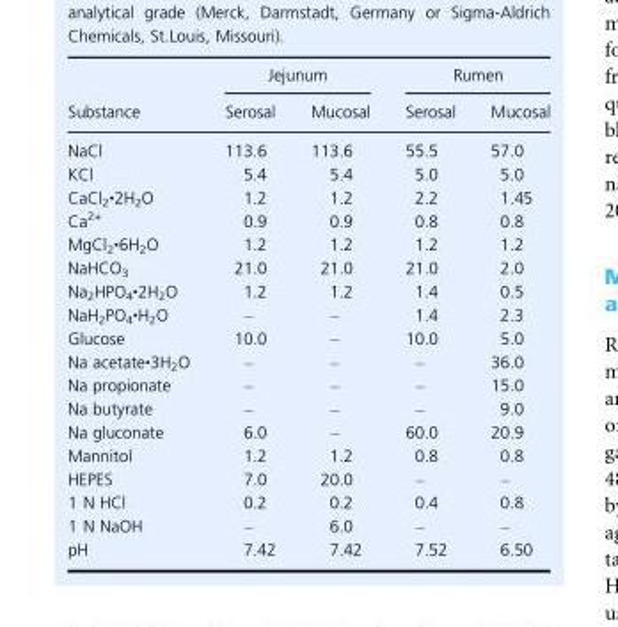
<table><thead><tr><td rowspan="2">Substance</td><td colspan="2">Jejunum</td><td colspan="2">Rumen</td></tr><tr><td>Serosal</td><td>Mucosal</td><td>Serosal</td><td>Mucosal</td></tr></thead><tbody><tr><td>NaCl</td><td>113.6</td><td>113.6</td><td>55.5</td><td>57.0</td></tr><tr><td>KCl</td><td>5.4</td><td>5.4</td><td>5.0</td><td>5.0</td></tr><tr><td>CaCl<sub>2</sub>∙2H<sub>2</sub>O</td><td>1.2</td><td>1.2</td><td>2.2</td><td>1.45</td></tr><tr><td>Ca<sup>2+</sup></td><td>0.9</td><td>0.9</td><td>0.8</td><td>0.8</td></tr><tr><td>MgCl<sub>2</sub>∙6H<sub>2</sub>O</td><td>1.2</td><td>1.2</td><td>1.2</td><td>1.2</td></tr><tr><td>NaHCO<sub>3</sub></td><td>21.0</td><td>21.0</td><td>21.0</td><td>2.0</td></tr><tr><td>Na<sub>2</sub>HPO<sub>4</sub>∙2H<sub>2</sub>O</td><td>1.2</td><td>1.2</td><td>1.4</td><td>0.5</td></tr><tr><td>NaH<sub>2</sub>PO<sub>4</sub>∙H<sub>2</sub>O</td><td>–</td><td>–</td><td>1.4</td><td>2.3</td></tr><tr><td>Glucose</td><td>10.0</td><td>–</td><td>10.0</td><td>5.0</td></tr><tr><td>Na acetate∙3H<sub>2</sub>O</td><td>–</td><td>–</td><td>–</td><td>36.0</td></tr><tr><td>Na propionate</td><td>–</td><td>–</td><td>–</td><td>15.0</td></tr><tr><td>Na butyrate</td><td>–</td><td>–</td><td>–</td><td>9.0</td></tr><tr><td>Na gluconate</td><td>6.0</td><td>–</td><td>60.0</td><td>20.9</td></tr><tr><td>Mannitol</td><td>1.2</td><td>1.2</td><td>0.8</td><td>0.8</td></tr><tr><td>HEPES</td><td>7.0</td><td>20.0</td><td>–</td><td>–</td></tr><tr><td>1 N HCl</td><td>0.2</td><td>0.2</td><td>0.4</td><td>0.8</td></tr><tr><td>1 N NaOH</td><td>–</td><td>6.0</td><td>–</td><td>–</td></tr><tr><td>pH</td><td>7.42</td><td>7.42</td><td>7.52</td><td>6.50</td></tr></tbody></table>